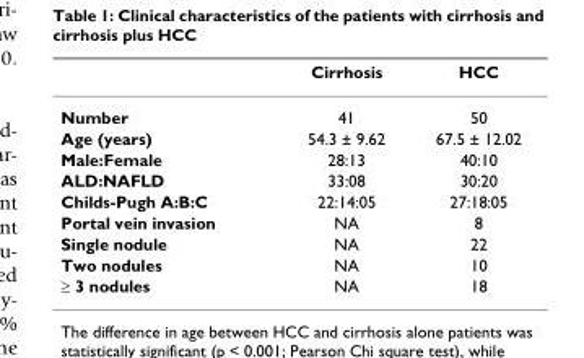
<table><thead><tr><td></td><td>Cirrhosis</td><td>HCC</td></tr></thead><tbody><tr><td>Number</td><td>41</td><td>50</td></tr><tr><td>Age (years)</td><td>54.3 ± 9.62</td><td>67.5 ± 12.02</td></tr><tr><td>Male:Female</td><td>28:13</td><td>40:10</td></tr><tr><td>ALD:NAFLD</td><td>33:08</td><td>30:20</td></tr><tr><td>Childs-Pugh A:B:C</td><td>22:14:05</td><td>27:18:05</td></tr><tr><td>Portal vein invasion</td><td>NA</td><td>8</td></tr><tr><td>Single nodule</td><td>NA</td><td>22</td></tr><tr><td>Two nodules</td><td>NA</td><td>10</td></tr><tr><td>≥ 3 nodules</td><td>NA</td><td>18</td></tr></tbody></table>